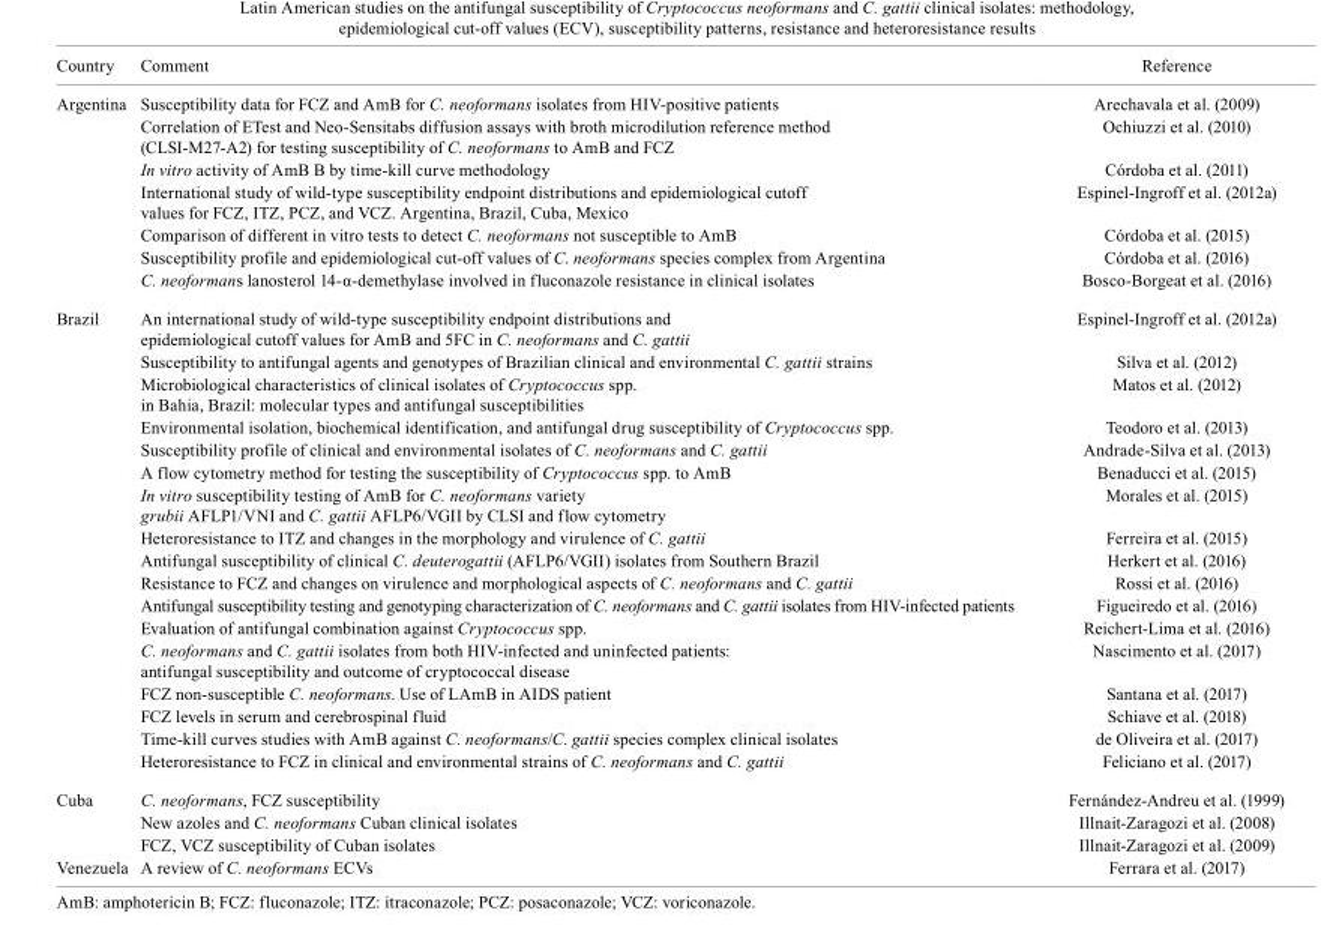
<table><thead><tr><td>Country</td><td>Comment</td><td>Reference</td></tr></thead><tbody><tr><td rowspan="7">Argentina</td><td>Susceptibility data for FCZ and AmB for C. neoformans isolates from HIV-positive patients</td><td>Arechavala et al. (2009)</td></tr><tr><td>Correlation of ETest and Neo-Sensitabs diffusion assays with broth microdilution reference method (CLSI-M27-A2) for testing susceptibility of C. neoformans to AmB and FCZ</td><td>Ochiuzzi et al. (2010)</td></tr><tr><td>In vitro activity of AmB B by time-kill curve methodology</td><td>Córdoba et al. (2011)</td></tr><tr><td>International study of wild-type susceptibility endpoint distributions and epidemiological cutoff values for FCZ, ITZ, PCZ, and VCZ. Argentina, Brazil, Cuba, Mexico</td><td>Espinel-Ingroff et al. (2012a)</td></tr><tr><td>Comparison of different in vitro tests to detect C. neoformans not susceptible to AmB</td><td>Córdoba et al. (2015)</td></tr><tr><td>Susceptibility profile and epidemiological cut-off values of C. neoformans species complex from Argentina</td><td>Córdoba et al. (2016)</td></tr><tr><td>C. neoformans lanosterol 14-α-demethylase involved in fluconazole resistance in clinical isolates</td><td>Bosco-Borgeat et al. (2016)</td></tr><tr><td rowspan="17">Brazil</td><td>An international study of wild-type susceptibility endpoint distributions and epidemiological cutoff values for AmB and 5FC in C. neoformans and C. gattii</td><td>Espinel-Ingroff et al. (2012a)</td></tr><tr><td>Susceptibility to antifungal agents and genotypes of Brazilian clinical and environmental C. gattii strains</td><td>Silva et al. (2012)</td></tr><tr><td>Microbiological characteristics of clinical isolates of Cryptococcus spp. in Bahia, Brazil: molecular types and antifungal susceptibilities</td><td>Matos et al. (2012)</td></tr><tr><td>Environmental isolation, biochemical identification, and antifungal drug susceptibility of Cryptococcus spp.</td><td>Teodoro et al. (2013)</td></tr><tr><td>Susceptibility profile of clinical and environmental isolates of C. neoformans and C. gattii</td><td>Andrade-Silva et al. (2013)</td></tr><tr><td>A flow cytometry method for testing the susceptibility of Cryptococcus spp. to AmB</td><td>Benaducci et al. (2015)</td></tr><tr><td>In vitro susceptibility testing of AmB for C. neoformans variety grubii AFLP1/VNI and C. gattii AFLP6/VGII by CLSI and flow cytometry</td><td>Morales et al. (2015)</td></tr><tr><td>Heteroresistance to ITZ and changes in the morphology and virulence of C. gattii</td><td>Ferreira et al. (2015)</td></tr><tr><td>Antifungal susceptibility of clinical C. deuterogattii (AFLP6/VGII) isolates from Southern Brazil</td><td>Herkert et al. (2016)</td></tr><tr><td>Resistance to FCZ and changes on virulence and morphological aspects of C. neoformans and C. gattii</td><td>Rossi et al. (2016)</td></tr><tr><td>Antifungal susceptibility testing and genotyping characterization of C. neoformans and C. gattii isolates from HIV-infected patients</td><td>Figueiredo et al. (2016)</td></tr><tr><td>Evaluation of antifungal combination against Cryptococcus spp.</td><td>Reichert-Lima et al. (2016)</td></tr><tr><td>C. neoformans and C. gattii isolates from both HIV-infected and uninfected patients: antifungal susceptibility and outcome of cryptococcal disease</td><td>Nascimento et al. (2017)</td></tr><tr><td>FCZ non-susceptible C. neoformans. Use of LAmB in AIDS patient</td><td>Santana et al. (2017)</td></tr><tr><td>FCZ levels in serum and cerebrospinal fluid</td><td>Schiave et al. (2018)</td></tr><tr><td>Time-kill curves studies with AmB against C. neoformans/C. gattii species complex clinical isolates</td><td>de Oliveira et al. (2017)</td></tr><tr><td>Heteroresistance to FCZ in clinical and environmental strains of C. neoformans and C. gattii</td><td>Feliciano et al. (2017)</td></tr><tr><td rowspan="3">Cuba</td><td>C. neoformans, FCZ susceptibility</td><td>Fernández-Andreu et al. (1999)</td></tr><tr><td>New azoles and C. neoformans Cuban clinical isolates</td><td>Illnait-Zaragozi et al. (2008)</td></tr><tr><td>FCZ, VCZ susceptibility of Cuban isolates</td><td>Illnait-Zaragozi et al. (2009)</td></tr><tr><td>Venezuela</td><td>A review of C. neoformans ECVs</td><td>Ferrara et al. (2017)</td></tr></tbody></table>